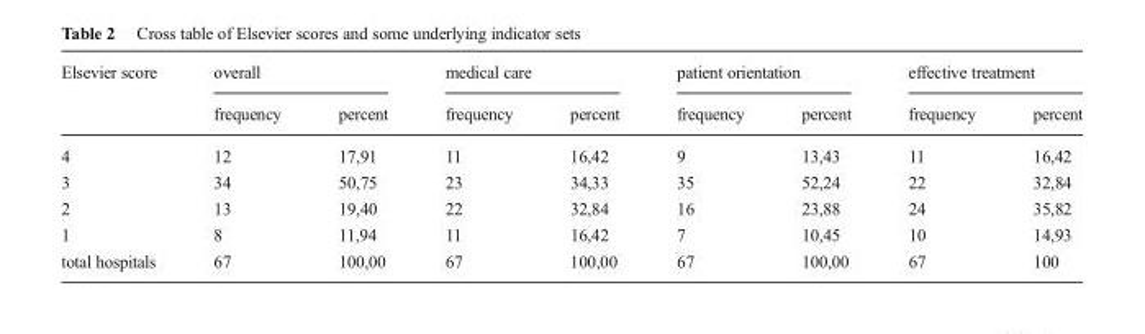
<table><thead><tr><td rowspan="2">Elsevier score</td><td colspan="2">overall</td><td colspan="2">medical care</td><td colspan="2">patient orientation</td><td colspan="2">effective treatment</td></tr><tr><td>frequency</td><td>percent</td><td>frequency</td><td>percent</td><td>frequency</td><td>percent</td><td>frequency</td><td>percent</td></tr></thead><tbody><tr><td>4</td><td>12</td><td>17,91</td><td>11</td><td>16,42</td><td>9</td><td>13,43</td><td>11</td><td>16,42</td></tr><tr><td>3</td><td>34</td><td>50,75</td><td>23</td><td>34,33</td><td>35</td><td>52,24</td><td>22</td><td>32,84</td></tr><tr><td>2</td><td>13</td><td>19,40</td><td>22</td><td>32,84</td><td>16</td><td>23,88</td><td>24</td><td>35,82</td></tr><tr><td>1</td><td>8</td><td>11,94</td><td>11</td><td>16,42</td><td>7</td><td>10,45</td><td>10</td><td>14,93</td></tr><tr><td>total hospitals</td><td>67</td><td>100,00</td><td>67</td><td>100,00</td><td>67</td><td>100,00</td><td>67</td><td>100</td></tr></tbody></table>